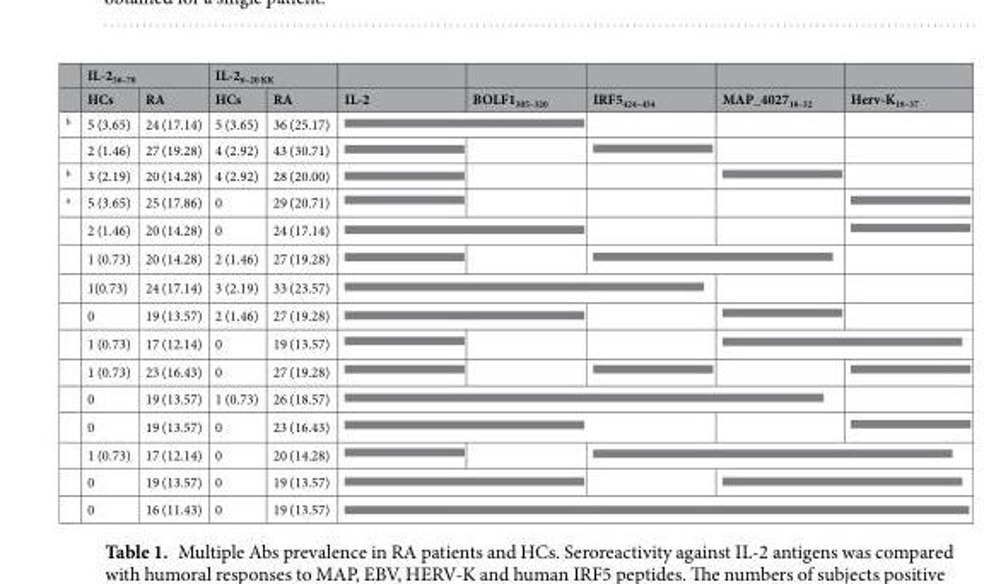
<table><thead><tr><td rowspan="2"></td><td colspan="2">IL-2<sub>56–70</sub></td><td colspan="2">IL-2<sub>6–20 KK</sub></td><td rowspan="2">IL-2</td><td rowspan="2">BOLF1<sub>305–320</sub></td><td rowspan="2">IRF5<sub>424–434</sub></td><td rowspan="2">MAP_4027<sub>18–32</sub></td><td rowspan="2">Herv-K<sub>19–37</sub></td></tr><tr><td>HCs</td><td>RA</td><td>HCs</td><td>RA</td></tr></thead><tbody><tr><td rowspan="2"><sup>b</sup></td><td>5 (3.65)</td><td>24 (17.14)</td><td>5 (3.65)</td><td>36 (25.17)</td><td colspan="2"></td><td></td><td></td><td></td></tr><tr><td>2 (1.46)</td><td>27 (19.28)</td><td>4 (2.92)</td><td>43 (30.71)</td><td></td><td></td><td></td><td></td><td></td></tr><tr><td><sup>b</sup></td><td>3 (2.19)</td><td>20 (14.28)</td><td>4 (2.92)</td><td>28 (20.00)</td><td></td><td></td><td></td><td></td><td></td></tr><tr><td rowspan="12"><sup>a</sup></td><td>5 (3.65)</td><td>25 (17.86)</td><td>0</td><td>29 (20.71)</td><td></td><td></td><td></td><td></td><td></td></tr><tr><td>2 (1.46)</td><td>20 (14.28)</td><td>0</td><td>24 (17.14)</td><td colspan="2"></td><td></td><td></td><td></td></tr><tr><td>1 (0.73)</td><td>20 (14.28)</td><td>2 (1.46)</td><td>27 (19.28)</td><td></td><td></td><td colspan="2"></td><td></td></tr><tr><td>1(0.73)</td><td>24 (17.14)</td><td>3 (2.19)</td><td>33 (23.57)</td><td colspan="3"></td><td></td><td></td></tr><tr><td>0</td><td>19 (13.57)</td><td>2 (1.46)</td><td>27 (19.28)</td><td colspan="2"></td><td></td><td></td><td></td></tr><tr><td>1 (0.73)</td><td>17 (12.14)</td><td>0</td><td>19 (13.57)</td><td></td><td></td><td></td><td colspan="2"></td></tr><tr><td>1 (0.73)</td><td>23 (16.43)</td><td>0</td><td>27 (19.28)</td><td></td><td></td><td></td><td></td><td></td></tr><tr><td>0</td><td>19 (13.57)</td><td>1 (0.73)</td><td>26 (18.57)</td><td colspan="4"></td><td></td></tr><tr><td>0</td><td>19 (13.57)</td><td>0</td><td>23 (16.43)</td><td colspan="3"></td><td></td><td></td></tr><tr><td>1 (0.73)</td><td>17 (12.14)</td><td>0</td><td>20 (14.28)</td><td></td><td></td><td colspan="3"></td></tr><tr><td>0</td><td>19 (13.57)</td><td>0</td><td>19 (13.57)</td><td colspan="2"></td><td></td><td colspan="2"></td></tr><tr><td>0</td><td>16 (11.43)</td><td>0</td><td>19 (13.57)</td><td colspan="5"></td></tr></tbody></table>